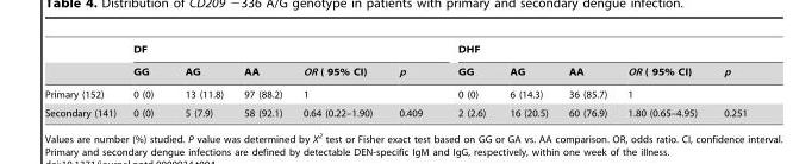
<table><thead><tr><td rowspan="2"></td><td colspan="5">DF</td><td colspan="5">DHF</td></tr><tr><td>GG</td><td>AG</td><td>AA</td><td>OR ( 95% CI)</td><td>p</td><td>GG</td><td>AG</td><td>AA</td><td>OR ( 95% CI)</td><td>p</td></tr></thead><tbody><tr><td>Primary (152)</td><td>0 (0)</td><td>13 (11.8)</td><td>97 (88.2)</td><td>1</td><td></td><td>0 (0)</td><td>6 (14.3)</td><td>36 (85.7)</td><td>1</td><td></td></tr><tr><td>Secondary (141)</td><td>0 (0)</td><td>5 (7.9)</td><td>58 (92.1)</td><td>0.64 (0.22–1.90)</td><td>0.409</td><td>2 (2.6)</td><td>16 (20.5)</td><td>60 (76.9)</td><td>1.80 (0.65–4.95)</td><td>0.251</td></tr></tbody></table>